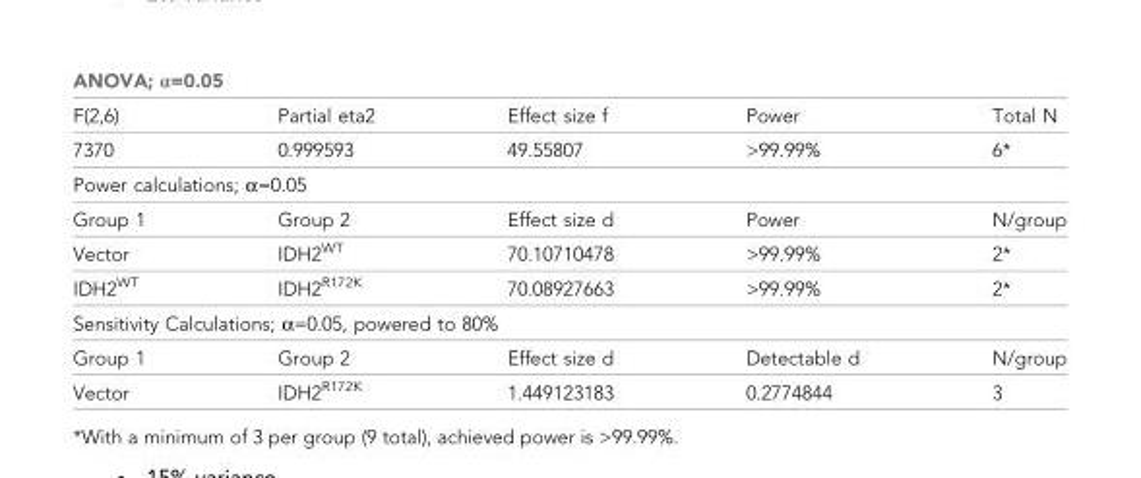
<table><thead><tr><td colspan="5">ANOVA; α=0.05</td></tr><tr><td>F(2,6)</td><td>Partial eta2</td><td>Effect size f</td><td>Power</td><td>Total N</td></tr></thead><tbody><tr><td>7370</td><td>0.999593</td><td>49.55807</td><td>&gt;99.99%</td><td>6*</td></tr><tr><td colspan="5">Power calculations; α=0.05</td></tr><tr><td>Group 1</td><td>Group 2</td><td>Effect size d</td><td>Power</td><td>N/group</td></tr><tr><td>Vector</td><td>IDH2<sup>WT</sup></td><td>70.10710478</td><td>&gt;99.99%</td><td>2*</td></tr><tr><td>IDH2<sup>WT</sup></td><td>IDH2<sup>R172K</sup></td><td>70.08927663</td><td>&gt;99.99%</td><td>2*</td></tr><tr><td colspan="5">Sensitivity Calculations; α=0.05, powered to 80%</td></tr><tr><td>Group 1</td><td>Group 2</td><td>Effect size d</td><td>Detectable d</td><td>N/group</td></tr><tr><td>Vector</td><td>IDH2<sup>R172K</sup></td><td>1.449123183</td><td>0.2774844</td><td>3</td></tr></tbody></table>